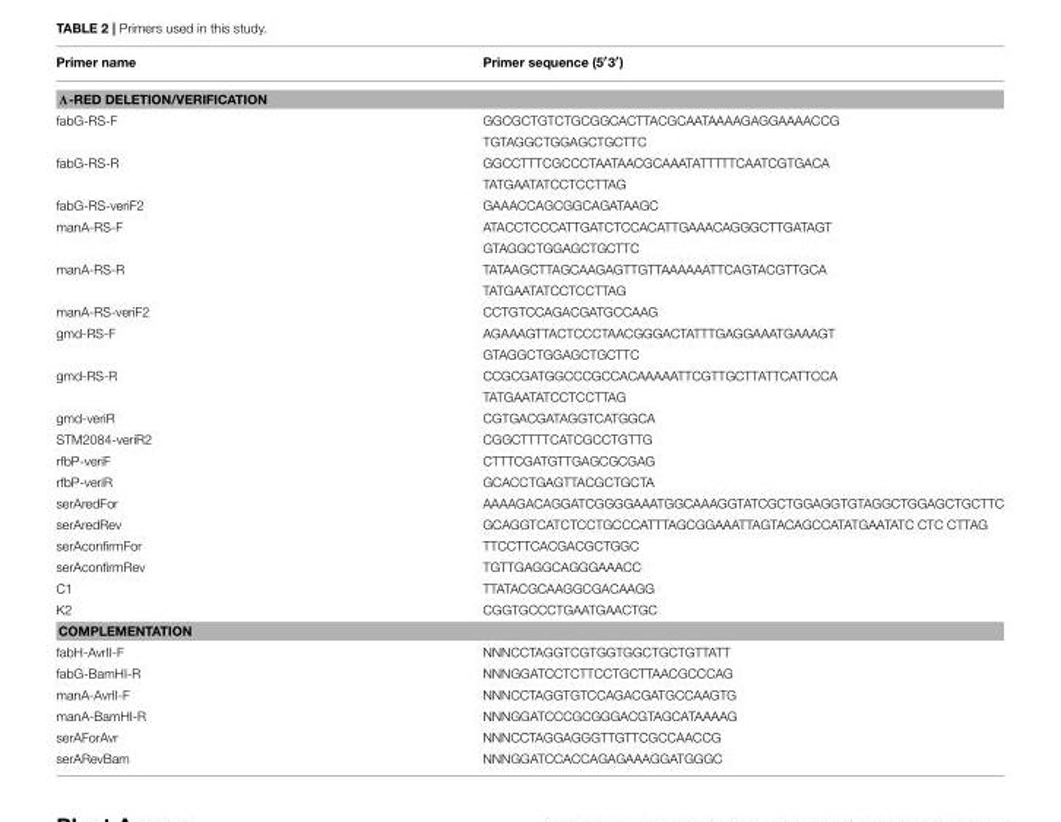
<table><thead><tr><td>Primer name</td><td>Primer sequence (5′3′)</td></tr></thead><tbody><tr><td colspan="2">Λ-RED DELETION/VERIFICATION</td></tr><tr><td rowspan="2">fabG-RS-F</td><td>GGCGCTGTCTGCGGCACTTACGCAATAAAAGAGGAAAACCG</td></tr><tr><td>TGTAGGCTGGAGCTGCTTC</td></tr><tr><td rowspan="2">fabG-RS-R</td><td>GGCCTTTCGCCCTAATAACGCAAATATTTTTCAATCGTGACA</td></tr><tr><td>TATGAATATCCTCCTTAG</td></tr><tr><td>fabG-RS-veriF2</td><td>GAAACCAGCGGCAGATAAGC</td></tr><tr><td rowspan="2">manA-RS-F</td><td>ATACCTCCCATTGATCTCCACATTGAAACAGGGCTTGATAGT</td></tr><tr><td>GTAGGCTGGAGCTGCTTC</td></tr><tr><td rowspan="2">manA-RS-R</td><td>TATAAGCTTAGCAAGAGTTGTTAAAAAATTCAGTACGTTGCA</td></tr><tr><td>TATGAATATCCTCCTTAG</td></tr><tr><td>manA-RS-veriF2</td><td>CCTGTCCAGACGATGCCAAG</td></tr><tr><td rowspan="2">gmd-RS-F</td><td>AGAAAGTTACTCCCTAACGGGACTATTTGAGGAAATGAAAGT</td></tr><tr><td>GTAGGCTGGAGCTGCTTC</td></tr><tr><td rowspan="2">gmd-RS-R</td><td>CCGCGATGGCCCGCCACAAAAATTCGTTGCTTATTCATTCCA</td></tr><tr><td>TATGAATATCCTCCTTAG</td></tr><tr><td>gmd-veriR</td><td>CGTGACGATAGGTCATGGCA</td></tr><tr><td>STM2084-veriR2</td><td>CGGCTTTTCATCGCCTGTTG</td></tr><tr><td>rfbP-veriF</td><td>CTTTCGATGTTGAGCGCGAG</td></tr><tr><td>rfbP-veriR</td><td>GCACCTGAGTTACGCTGCTA</td></tr><tr><td>serAredFor</td><td>AAAAGACAGGATCGGGGAAATGGCAAAGGTATCGCTGGAGGTGTAGGCTGGAGCTGCTTC</td></tr><tr><td>serAredRev</td><td>GCAGGTCATCTCCTGCCCATTTAGCGGAAATTAGTACAGCCATATGAATATC CTC CTTAG</td></tr><tr><td>serAconfirmFor</td><td>TTCCTTCACGACGCTGGC</td></tr><tr><td>serAconfirmRev</td><td>TGTTGAGGCAGGGAAACC</td></tr><tr><td>C1</td><td>TTATACGCAAGGCGACAAGG</td></tr><tr><td>K2</td><td>CGGTGCCCTGAATGAACTGC</td></tr><tr><td colspan="2">COMPLEMENTATION</td></tr><tr><td>fabH-AvrII-F</td><td>NNNCCTAGGTCGTGGTGGCTGCTGTTATT</td></tr><tr><td>fabG-BamHI-R</td><td>NNNGGATCCTCTTCCTGCTTAACGCCCAG</td></tr><tr><td>manA-AvrII-F</td><td>NNNCCTAGGTGTCCAGACGATGCCAAGTG</td></tr><tr><td>manA-BamHI-R</td><td>NNNGGATCCCGCGGGACGTAGCATAAAAG</td></tr><tr><td>serAForAvr</td><td>NNNCCTAGGAGGGTTGTTCGCCAACCG</td></tr><tr><td>serARevBam</td><td>NNNGGATCCACCAGAGAAAGGATGGGC</td></tr></tbody></table>